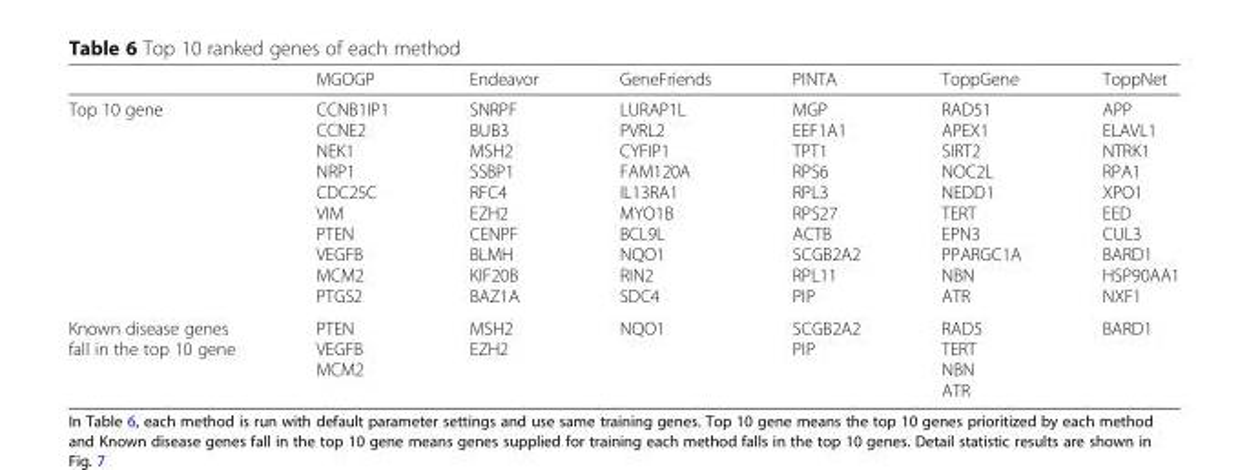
<table><thead><tr><td></td><td>MGOGP</td><td>Endeavor</td><td>GeneFriends</td><td>PINTA</td><td>ToppGene</td><td>ToppNet</td></tr></thead><tbody><tr><td>Top 10 gene</td><td>CCNB1IP1 CCNE2 NEK1 NRP1 CDC25C VIM PTEN VEGFB MCM2 PTGS2</td><td>SNRPF BUB3 MSH2 SSBP1 RFC4 EZH2 CENPF BLMH KIF20B BAZ1A</td><td>LURAP1L PVRL2 CYFIP1 FAM120A IL13RA1 MYO1B BCL9L NQO1 RIN2 SDC4</td><td>MGP EEF1A1 TPT1 RPS6 RPL3 RPS27 ACTB SCGB2A2 RPL11 PIP</td><td>RAD51 APEX1 SIRT2 NOC2L NEDD1 TERT EPN3 PPARGC1A NBN ATR</td><td>APP ELAVL1 NTRK1 RPA1 XPO1 EED CUL3 BARD1 HSP90AA1 NXF1</td></tr><tr><td>Known disease genes fall in the top 10 gene</td><td>PTEN VEGFB MCM2</td><td>MSH2 EZH2</td><td>NQO1</td><td>SCGB2A2 PIP</td><td>RAD5 TERT NBN ATR</td><td>BARD1</td></tr></tbody></table>